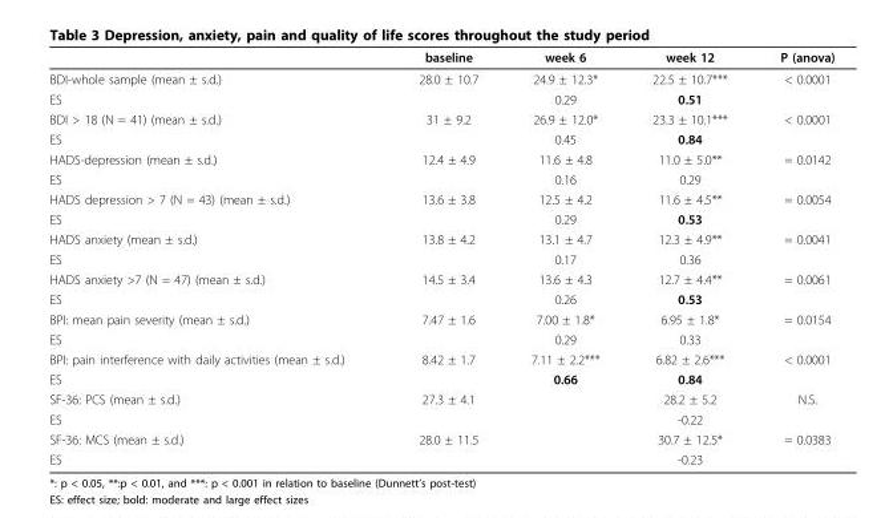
<table><thead><tr><td></td><td>baseline</td><td>week 6</td><td>week 12</td><td>P (anova)</td></tr></thead><tbody><tr><td>BDI-whole sample (mean ± s.d.)</td><td>28.0 ± 10.7</td><td>24.9 ± 12.3*</td><td>22.5 ± 10.7***</td><td>&lt; 0.0001</td></tr><tr><td>ES</td><td></td><td>0.29</td><td>0.51</td><td></td></tr><tr><td>BDI &gt; 18 (N = 41) (mean ± s.d.)</td><td>31 ± 9.2</td><td>26.9 ± 12.0*</td><td>23.3 ± 10.1***</td><td>&lt; 0.0001</td></tr><tr><td>ES</td><td></td><td>0.45</td><td>0.84</td><td></td></tr><tr><td>HADS-depression (mean ± s.d.)</td><td>12.4 ± 4.9</td><td>11.6 ± 4.8</td><td>11.0 ± 5.0**</td><td>= 0.0142</td></tr><tr><td>ES</td><td></td><td>0.16</td><td>0.29</td><td></td></tr><tr><td>HADS depression &gt; 7 (N = 43) (mean ± s.d.)</td><td>13.6 ± 3.8</td><td>12.5 ± 4.2</td><td>11.6 ± 4.5**</td><td>= 0.0054</td></tr><tr><td>ES</td><td></td><td>0.29</td><td>0.53</td><td></td></tr><tr><td>HADS anxiety (mean ± s.d.)</td><td>13.8 ± 4.2</td><td>13.1 ± 4.7</td><td>12.3 ± 4.9**</td><td>= 0.0041</td></tr><tr><td>ES</td><td></td><td>0.17</td><td>0.36</td><td></td></tr><tr><td>HADS anxiety &gt;7 (N = 47) (mean ± s.d.)</td><td>14.5 ± 3.4</td><td>13.6 ± 4.3</td><td>12.7 ± 4.4**</td><td>= 0.0061</td></tr><tr><td>ES</td><td></td><td>0.26</td><td>0.53</td><td></td></tr><tr><td>BPI: mean pain severity (mean ± s.d.)</td><td>7.47 ± 1.6</td><td>7.00 ± 1.8*</td><td>6.95 ± 1.8*</td><td>= 0.0154</td></tr><tr><td>ES</td><td></td><td>0.29</td><td>0.33</td><td></td></tr><tr><td>BPI: pain interference with daily activities (mean ± s.d.)</td><td>8.42 ± 1.7</td><td>7.11 ± 2.2***</td><td>6.82 ± 2.6***</td><td>&lt; 0.0001</td></tr><tr><td>ES</td><td></td><td>0.66</td><td>0.84</td><td></td></tr><tr><td>SF-36: PCS (mean ± s.d.)</td><td>27.3 ± 4.1</td><td></td><td>28.2 ± 5.2</td><td>N.S.</td></tr><tr><td>ES</td><td></td><td></td><td>-0.22</td><td></td></tr><tr><td>SF-36: MCS (mean ± s.d.)</td><td>28.0 ± 11.5</td><td></td><td>30.7 ± 12.5*</td><td>= 0.0383</td></tr><tr><td>ES</td><td></td><td></td><td>-0.23</td><td></td></tr></tbody></table>